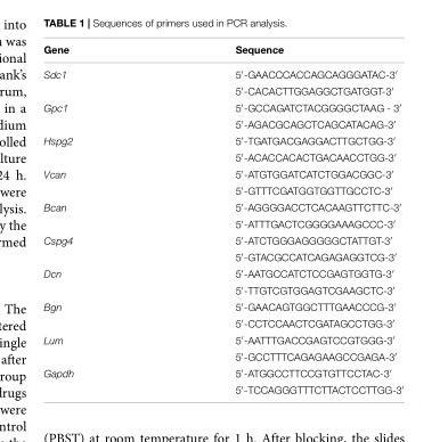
<table><thead><tr><td>Gene</td><td>Sequence</td></tr></thead><tbody><tr><td rowspan="2">Sdc1</td><td>5′-GAACCCACCAGCAGGGATAC-3′</td></tr><tr><td>5′-CACACTTGGAGGCTGATGGT-3′</td></tr><tr><td rowspan="2">Gpc1</td><td>5′-GCCAGATCTACGGGGCTAAG - 3′</td></tr><tr><td>5′-AGACGCAGCTCAGCATACAG-3′</td></tr><tr><td rowspan="2">Hspg2</td><td>5′-TGATGACGAGGACTTGCTGG-3′</td></tr><tr><td>5′-ACACCACACTGACAACCTGG-3′</td></tr><tr><td rowspan="2">Vcan</td><td>5′-ATGTGGATCATCTGGACGGC-3′</td></tr><tr><td>5′-GTTTCGATGGTGGTTGCCTC-3′</td></tr><tr><td rowspan="2">Bcan</td><td>5′-AGGGGACCTCACAAGTTCTTC-3′</td></tr><tr><td>5′-ATTTGACTCGGGGAAAGCCC-3′</td></tr><tr><td rowspan="2">Cspg4</td><td>5′-ATCTGGGAGGGGGCTATTGT-3′</td></tr><tr><td>5′-GTACGCCATCAGAGAGGTCG-3′</td></tr><tr><td rowspan="2">Dcn</td><td>5′-AATGCCATCTCCGAGTGGTG-3′</td></tr><tr><td>5′-TTGTCGTGGAGTCGAAGCTC-3′</td></tr><tr><td rowspan="2">Bgn</td><td>5′-GAACAGTGGCTTTGAACCCG-3’</td></tr><tr><td>5′-CCTCCAACTCGATAGCCTGG-3′</td></tr><tr><td rowspan="2">Lum</td><td>5′-AATTTGACCGAGTCCGTGGG-3′</td></tr><tr><td>5′-GCCTTTCAGAGAAGCCGAGA-3′</td></tr><tr><td rowspan="2">Gapdh</td><td>5′-ATGGCCTTCCGTGTTCCTAC-3′</td></tr><tr><td>5′-TCCAGGGTTTCTTACTCCTTGG-3′</td></tr></tbody></table>